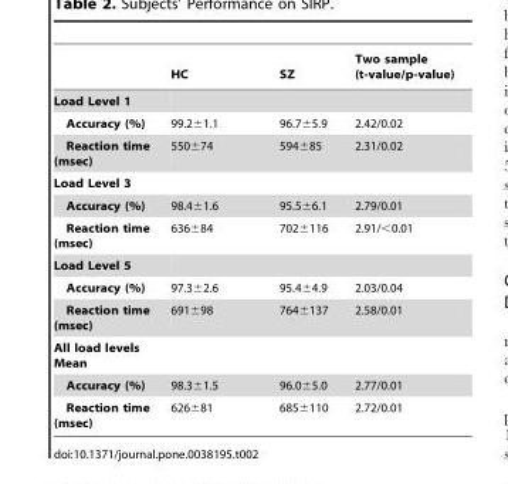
<table><thead><tr><td></td><td>HC</td><td>SZ</td><td>Two sample (t-value/p-value)</td></tr></thead><tbody><tr><td colspan="4">Load Level 1</td></tr><tr><td>Accuracy (%)</td><td>99.2±1.1</td><td>96.7±5.9</td><td>2.42/0.02</td></tr><tr><td>Reaction time (msec)</td><td>550±74</td><td>594±85</td><td>2.31/0.02</td></tr><tr><td colspan="4">Load Level 3</td></tr><tr><td>Accuracy (%)</td><td>98.4±1.6</td><td>95.5±6.1</td><td>2.79/0.01</td></tr><tr><td>Reaction time (msec)</td><td>636±84</td><td>702±116</td><td>2.91/&lt;0.01</td></tr><tr><td colspan="4">Load Level 5</td></tr><tr><td>Accuracy (%)</td><td>97.3±2.6</td><td>95.4±4.9</td><td>2.03/0.04</td></tr><tr><td>Reaction time (msec)</td><td>691±98</td><td>764±137</td><td>2.58/0.01</td></tr><tr><td colspan="4">All load levels Mean</td></tr><tr><td>Accuracy (%)</td><td>98.3±1.5</td><td>96.0±5.0</td><td>2.77/0.01</td></tr><tr><td>Reaction time (msec)</td><td>626±81</td><td>685±110</td><td>2.72/0.01</td></tr></tbody></table>